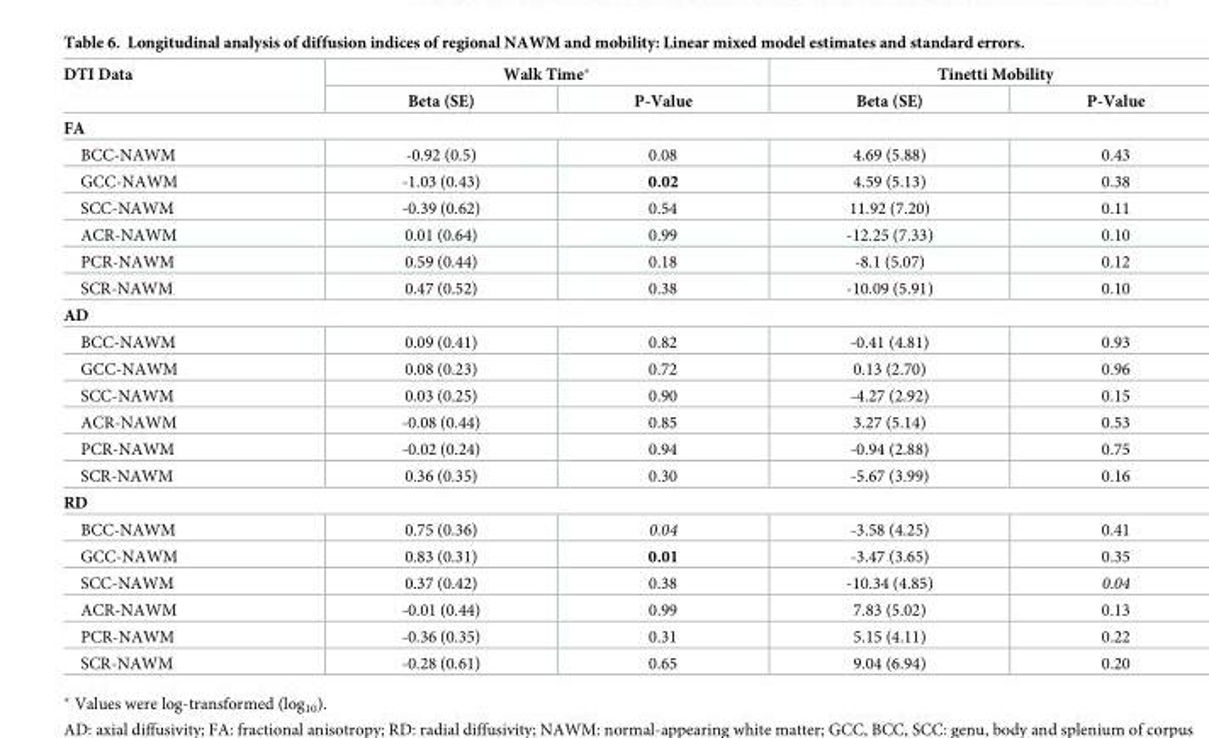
<table><thead><tr><td rowspan="2">DTI Data</td><td colspan="2">Walk Time*</td><td colspan="2">Tinetti Mobility</td></tr><tr><td>Beta (SE)</td><td>P-Value</td><td>Beta (SE)</td><td>P-Value</td></tr></thead><tbody><tr><td colspan="5">FA</td></tr><tr><td>BCC-NAWM</td><td>-0.92 (0.5)</td><td>0.08</td><td>4.69 (5.88)</td><td>0.43</td></tr><tr><td>GCC-NAWM</td><td>-1.03 (0.43)</td><td>0.02</td><td>4.59 (5.13)</td><td>0.38</td></tr><tr><td>SCC-NAWM</td><td>-0.39 (0.62)</td><td>0.54</td><td>11.92 (7.20)</td><td>0.11</td></tr><tr><td>ACR-NAWM</td><td>0.01 (0.64)</td><td>0.99</td><td>-12.25 (7.33)</td><td>0.10</td></tr><tr><td>PCR-NAWM</td><td>0.59 (0.44)</td><td>0.18</td><td>-8.1 (5.07)</td><td>0.12</td></tr><tr><td>SCR-NAWM</td><td>0.47 (0.52)</td><td>0.38</td><td>-10.09 (5.91)</td><td>0.10</td></tr><tr><td colspan="5">AD</td></tr><tr><td>BCC-NAWM</td><td>0.09 (0.41)</td><td>0.82</td><td>-0.41 (4.81)</td><td>0.93</td></tr><tr><td>GCC-NAWM</td><td>0.08 (0.23)</td><td>0.72</td><td>0.13 (2.70)</td><td>0.96</td></tr><tr><td>SCC-NAWM</td><td>0.03 (0.25)</td><td>0.90</td><td>-4.27 (2.92)</td><td>0.15</td></tr><tr><td>ACR-NAWM</td><td>-0.08 (0.44)</td><td>0.85</td><td>3.27 (5.14)</td><td>0.53</td></tr><tr><td>PCR-NAWM</td><td>-0.02 (0.24)</td><td>0.94</td><td>-0.94 (2.88)</td><td>0.75</td></tr><tr><td>SCR-NAWM</td><td>0.36 (0.35)</td><td>0.30</td><td>-5.67 (3.99)</td><td>0.16</td></tr><tr><td colspan="5">RD</td></tr><tr><td>BCC-NAWM</td><td>0.75 (0.36)</td><td>0.04</td><td>-3.58 (4.25)</td><td>0.41</td></tr><tr><td>GCC-NAWM</td><td>0.83 (0.31)</td><td>0.01</td><td>-3.47 (3.65)</td><td>0.35</td></tr><tr><td>SCC-NAWM</td><td>0.37 (0.42)</td><td>0.38</td><td>-10.34 (4.85)</td><td>0.04</td></tr><tr><td>ACR-NAWM</td><td>-0.01 (0.44)</td><td>0.99</td><td>7.83 (5.02)</td><td>0.13</td></tr><tr><td>PCR-NAWM</td><td>-0.36 (0.35)</td><td>0.31</td><td>5.15 (4.11)</td><td>0.22</td></tr><tr><td>SCR-NAWM</td><td>-0.28 (0.61)</td><td>0.65</td><td>9.04 (6.94)</td><td>0.20</td></tr></tbody></table>